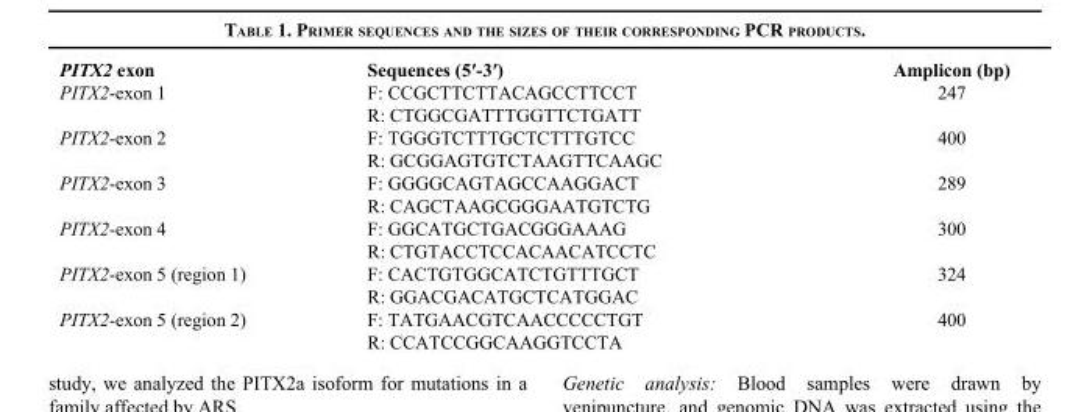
<table><thead><tr><td>PITX2 exon</td><td>Sequences (5′-3′)</td><td>Amplicon (bp)</td></tr></thead><tbody><tr><td rowspan="2">PITX2-exon 1</td><td>F: CCGCTTCTTACAGCCTTCCT</td><td>247</td></tr><tr><td>R: CTGGCGATTTGGTTCTGATT</td><td></td></tr><tr><td rowspan="2">PITX2-exon 2</td><td>F: TGGGTCTTTGCTCTTTGTCC</td><td>400</td></tr><tr><td>R: GCGGAGTGTCTAAGTTCAAGC</td><td></td></tr><tr><td rowspan="2">PITX2-exon 3</td><td>F: GGGGCAGTAGCCAAGGACT</td><td>289</td></tr><tr><td>R: CAGCTAAGCGGGAATGTCTG</td><td></td></tr><tr><td rowspan="2">PITX2-exon 4</td><td>F: GGCATGCTGACGGGAAAG</td><td>300</td></tr><tr><td>R: CTGTACCTCCACAACATCCTC</td><td></td></tr><tr><td rowspan="2">PITX2-exon 5 (region 1)</td><td>F: CACTGTGGCATCTGTTTGCT</td><td>324</td></tr><tr><td>R: GGACGACATGCTCATGGAC</td><td></td></tr><tr><td rowspan="2">PITX2-exon 5 (region 2)</td><td>F: TATGAACGTCAACCCCCTGT</td><td>400</td></tr><tr><td>R: CCATCCGGCAAGGTCCTA</td><td></td></tr></tbody></table>